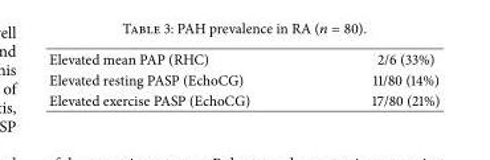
<table><tbody><tr><td>Elevated mean PAP (RHC)</td><td>2/6 (33%)</td></tr><tr><td>Elevated resting PASP (EchoCG)</td><td>11/80 (14%)</td></tr><tr><td>Elevated exercise PASP (EchoCG)</td><td>17/80 (21%)</td></tr></tbody></table>